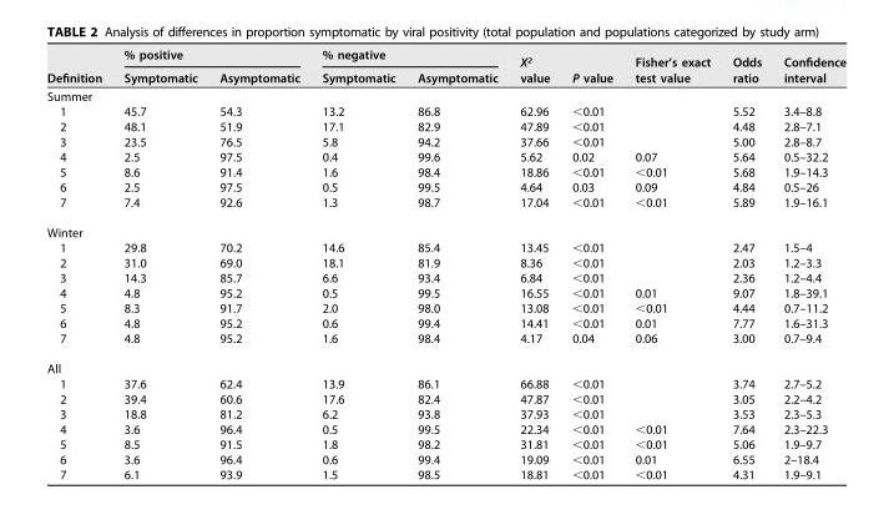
<table><thead><tr><td rowspan="2">Definition</td><td colspan="2">% positive</td><td colspan="2">% negative</td><td rowspan="2">X<sup>2</sup> value</td><td rowspan="2">P value</td><td rowspan="2">Fisher’s exact test value</td><td rowspan="2">Odds ratio</td><td rowspan="2">Confidence interval</td></tr><tr><td>Symptomatic</td><td>Asymptomatic</td><td>Symptomatic</td><td>Asymptomatic</td></tr></thead><tbody><tr><td colspan="10">Summer</td></tr><tr><td>1</td><td>45.7</td><td>54.3</td><td>13.2</td><td>86.8</td><td>62.96</td><td>&lt;0.01</td><td></td><td>5.52</td><td>3.4–8.8</td></tr><tr><td>2</td><td>48.1</td><td>51.9</td><td>17.1</td><td>82.9</td><td>47.89</td><td>&lt;0.01</td><td></td><td>4.48</td><td>2.8–7.1</td></tr><tr><td>3</td><td>23.5</td><td>76.5</td><td>5.8</td><td>94.2</td><td>37.66</td><td>&lt;0.01</td><td></td><td>5.00</td><td>2.8–8.7</td></tr><tr><td>4</td><td>2.5</td><td>97.5</td><td>0.4</td><td>99.6</td><td>5.62</td><td>0.02</td><td>0.07</td><td>5.64</td><td>0.5–32.2</td></tr><tr><td>5</td><td>8.6</td><td>91.4</td><td>1.6</td><td>98.4</td><td>18.86</td><td>&lt;0.01</td><td>&lt;0.01</td><td>5.68</td><td>1.9–14.3</td></tr><tr><td>6</td><td>2.5</td><td>97.5</td><td>0.5</td><td>99.5</td><td>4.64</td><td>0.03</td><td>0.09</td><td>4.84</td><td>0.5–26</td></tr><tr><td>7</td><td>7.4</td><td>92.6</td><td>1.3</td><td>98.7</td><td>17.04</td><td>&lt;0.01</td><td>&lt;0.01</td><td>5.89</td><td>1.9–16.1</td></tr><tr><td colspan="10">Winter</td></tr><tr><td>1</td><td>29.8</td><td>70.2</td><td>14.6</td><td>85.4</td><td>13.45</td><td>&lt;0.01</td><td></td><td>2.47</td><td>1.5–4</td></tr><tr><td>2</td><td>31.0</td><td>69.0</td><td>18.1</td><td>81.9</td><td>8.36</td><td>&lt;0.01</td><td></td><td>2.03</td><td>1.2–3.3</td></tr><tr><td>3</td><td>14.3</td><td>85.7</td><td>6.6</td><td>93.4</td><td>6.84</td><td>&lt;0.01</td><td></td><td>2.36</td><td>1.2–4.4</td></tr><tr><td>4</td><td>4.8</td><td>95.2</td><td>0.5</td><td>99.5</td><td>16.55</td><td>&lt;0.01</td><td>0.01</td><td>9.07</td><td>1.8–39.1</td></tr><tr><td>5</td><td>8.3</td><td>91.7</td><td>2.0</td><td>98.0</td><td>13.08</td><td>&lt;0.01</td><td>&lt;0.01</td><td>4.44</td><td>0.7–11.2</td></tr><tr><td>6</td><td>4.8</td><td>95.2</td><td>0.6</td><td>99.4</td><td>14.41</td><td>&lt;0.01</td><td>0.01</td><td>7.77</td><td>1.6–31.3</td></tr><tr><td>7</td><td>4.8</td><td>95.2</td><td>1.6</td><td>98.4</td><td>4.17</td><td>0.04</td><td>0.06</td><td>3.00</td><td>0.7–9.4</td></tr><tr><td colspan="10">All</td></tr><tr><td>1</td><td>37.6</td><td>62.4</td><td>13.9</td><td>86.1</td><td>66.88</td><td>&lt;0.01</td><td></td><td>3.74</td><td>2.7–5.2</td></tr><tr><td>2</td><td>39.4</td><td>60.6</td><td>17.6</td><td>82.4</td><td>47.87</td><td>&lt;0.01</td><td></td><td>3.05</td><td>2.2–4.2</td></tr><tr><td>3</td><td>18.8</td><td>81.2</td><td>6.2</td><td>93.8</td><td>37.93</td><td>&lt;0.01</td><td></td><td>3.53</td><td>2.3–5.3</td></tr><tr><td>4</td><td>3.6</td><td>96.4</td><td>0.5</td><td>99.5</td><td>22.34</td><td>&lt;0.01</td><td>&lt;0.01</td><td>7.64</td><td>2.3–22.3</td></tr><tr><td>5</td><td>8.5</td><td>91.5</td><td>1.8</td><td>98.2</td><td>31.81</td><td>&lt;0.01</td><td>&lt;0.01</td><td>5.06</td><td>1.9–9.7</td></tr><tr><td>6</td><td>3.6</td><td>96.4</td><td>0.6</td><td>99.4</td><td>19.09</td><td>&lt;0.01</td><td>0.01</td><td>6.55</td><td>2–18.4</td></tr><tr><td>7</td><td>6.1</td><td>93.9</td><td>1.5</td><td>98.5</td><td>18.81</td><td>&lt;0.01</td><td>&lt;0.01</td><td>4.31</td><td>1.9–9.1</td></tr></tbody></table>